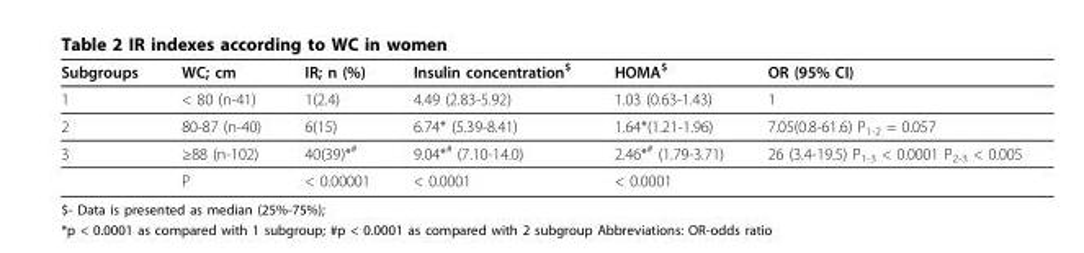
<table><thead><tr><td>Subgroups</td><td>WC; cm</td><td>IR; n (%)</td><td>Insulin concentration<sup>$</sup></td><td>HOMA<sup>$</sup></td><td>OR (95% CI)</td></tr></thead><tbody><tr><td>1</td><td>&lt; 80 (n-41)</td><td>1(2.4)</td><td>4.49 (2.83-5.92)</td><td>1.03 (0.63-1.43)</td><td>1</td></tr><tr><td>2</td><td>80-87 (n-40)</td><td>6(15)</td><td>6.74* (5.39-8.41)</td><td>1.64*(1.21-1.96)</td><td>7.05(0.8-61.6) P<sub>1-2</sub> = 0.057</td></tr><tr><td rowspan="2">3</td><td>≥88 (n-102)</td><td>40(39)*<sup>#</sup></td><td>9.04*<sup>#</sup> (7.10-14.0)</td><td>2.46*<sup>#</sup> (1.79-3.71)</td><td>26 (3.4-19.5) P<sub>1-3</sub> &lt; 0.0001 P<sub>2-3</sub> &lt; 0.005</td></tr><tr><td>P</td><td>&lt; 0.00001</td><td>&lt; 0.0001</td><td>&lt; 0.0001</td><td></td></tr></tbody></table>